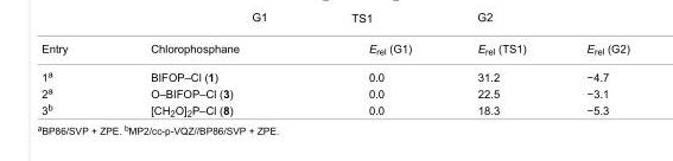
<table><tbody><tr><td>Entry</td><td>Chlorophosphane</td><td>E<sub>rel</sub> (G1)</td><td>E<sub>rel</sub> (TS1)</td><td>E<sub>rel</sub> (G2)</td></tr><tr><td>1<sup>a</sup></td><td>BIFOP–Cl (1)</td><td>0.0</td><td>31.2</td><td>−4.7</td></tr><tr><td>2<sup>a</sup></td><td>O–BIFOP–Cl (3)</td><td>0.0</td><td>22.5</td><td>−3.1</td></tr><tr><td>3<sup>b</sup></td><td>[CH<sub>2</sub>O]<sub>2</sub>P–Cl (8)</td><td>0.0</td><td>18.3</td><td>−5.3</td></tr></tbody></table>